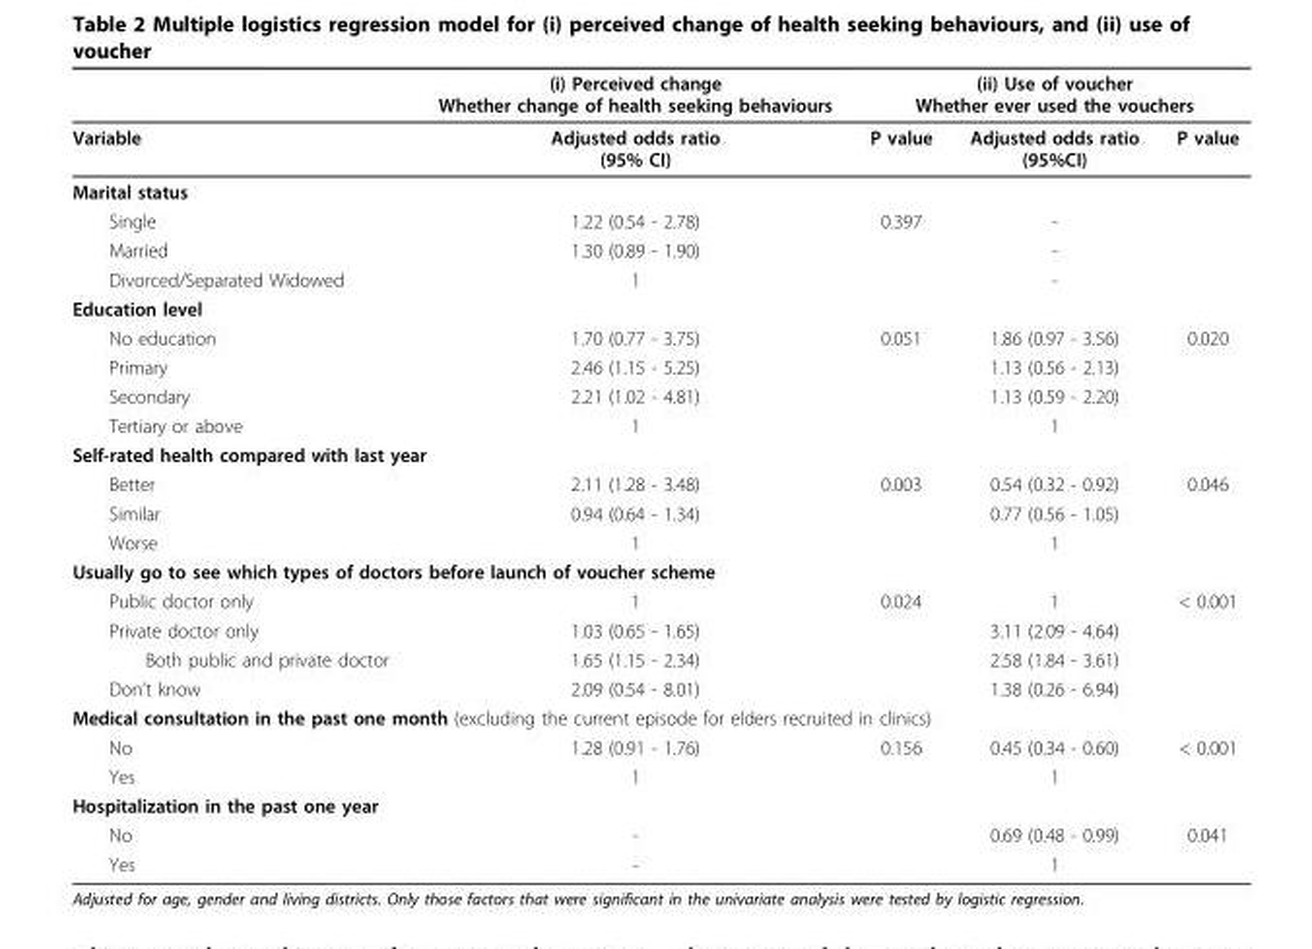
<table><thead><tr><td rowspan="2">Variable</td><td rowspan="2">(i) Perceived change Whether change of health seeking behaviours Adjusted odds ratio (95% CI)</td><td colspan="3">(ii) Use of voucher Whether ever used the vouchers</td></tr><tr><td>P value</td><td>Adjusted odds ratio (95%CI)</td><td>P value</td></tr></thead><tbody><tr><td colspan="5">Marital status</td></tr><tr><td>Single</td><td>1.22 (0.54 - 2.78)</td><td>0.397</td><td>-</td><td></td></tr><tr><td>Married</td><td>1.30 (0.89 - 1.90)</td><td></td><td>-</td><td></td></tr><tr><td>Divorced/Separated Widowed</td><td>1</td><td></td><td>-</td><td></td></tr><tr><td colspan="5">Education level</td></tr><tr><td>No education</td><td>1.70 (0.77 - 3.75)</td><td>0.051</td><td>1.86 (0.97 - 3.56)</td><td>0.020</td></tr><tr><td>Primary</td><td>2.46 (1.15 - 5.25)</td><td></td><td>1.13 (0.56 - 2.13)</td><td></td></tr><tr><td>Secondary</td><td>2.21 (1.02 - 4.81)</td><td></td><td>1.13 (0.59 - 2.20)</td><td></td></tr><tr><td>Tertiary or above</td><td>1</td><td></td><td>1</td><td></td></tr><tr><td colspan="5">Self-rated health compared with last year</td></tr><tr><td>Better</td><td>2.11 (1.28 - 3.48)</td><td>0.003</td><td>0.54 (0.32 - 0.92)</td><td>0.046</td></tr><tr><td>Similar</td><td>0.94 (0.64 - 1.34)</td><td></td><td>0.77 (0.56 - 1.05)</td><td></td></tr><tr><td>Worse</td><td>1</td><td></td><td>1</td><td></td></tr><tr><td colspan="5">Usually go to see which types of doctors before launch of voucher scheme</td></tr><tr><td>Public doctor only</td><td>1</td><td>0.024</td><td>1</td><td>&lt; 0.001</td></tr><tr><td>Private doctor only</td><td>1.03 (0.65 - 1.65)</td><td></td><td>3.11 (2.09 - 4.64)</td><td></td></tr><tr><td>Both public and private doctor</td><td>1.65 (1.15 - 2.34)</td><td></td><td>2.58 (1.84 - 3.61)</td><td></td></tr><tr><td>Don’t know</td><td>2.09 (0.54 - 8.01)</td><td></td><td>1.38 (0.26 - 6.94)</td><td></td></tr><tr><td colspan="5">Medical consultation in the past one month (excluding the current episode for elders recruited in clinics)</td></tr><tr><td>No</td><td>1.28 (0.91 - 1.76)</td><td>0.156</td><td>0.45 (0.34 - 0.60)</td><td>&lt; 0.001</td></tr><tr><td>Yes</td><td>1</td><td></td><td>1</td><td></td></tr><tr><td colspan="5">Hospitalization in the past one year</td></tr><tr><td>No</td><td>-</td><td></td><td>0.69 (0.48 - 0.99)</td><td>0.041</td></tr><tr><td>Yes</td><td>-</td><td></td><td>1</td><td></td></tr></tbody></table>